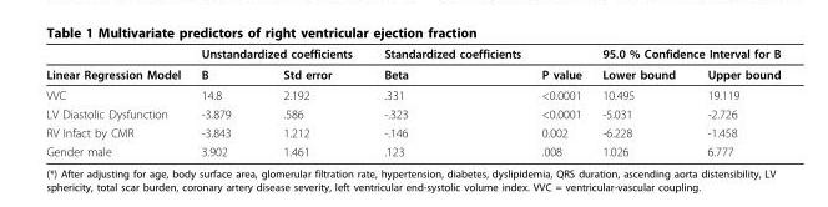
<table><thead><tr><td rowspan="2">Linear Regression Model</td><td colspan="2">Unstandardized coefficients</td><td rowspan="2">Standardized coefficients Beta</td><td rowspan="2">P value</td><td colspan="2">95.0 % Confidence Interval for B</td></tr><tr><td>B</td><td>Std error</td><td>Lower bound</td><td>Upper bound</td></tr></thead><tbody><tr><td>VVC</td><td>14.8</td><td>2.192</td><td>.331</td><td>&lt;0.0001</td><td>10.495</td><td>19.119</td></tr><tr><td>LV Diastolic Dysfunction</td><td>-3.879</td><td>.586</td><td>-.323</td><td>&lt;0.0001</td><td>-5.031</td><td>-2.726</td></tr><tr><td>RV Infact by CMR</td><td>-3.843</td><td>1.212</td><td>-.146</td><td>0.002</td><td>-6.228</td><td>-1.458</td></tr><tr><td>Gender male</td><td>3.902</td><td>1.461</td><td>.123</td><td>.008</td><td>1.026</td><td>6.777</td></tr></tbody></table>